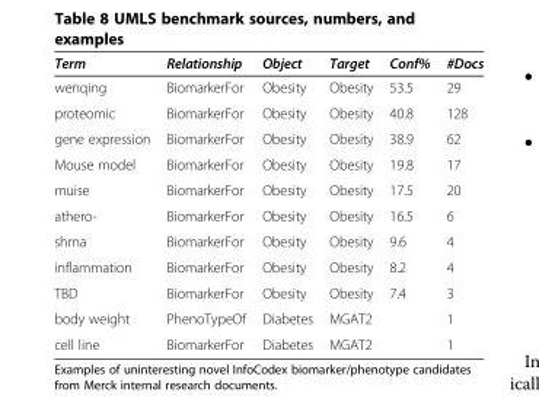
<table><thead><tr><td>Term</td><td>Relationship</td><td>Object</td><td>Target</td><td>Conf%</td><td>#Docs</td></tr></thead><tbody><tr><td>wenqing</td><td>BiomarkerFor</td><td>Obesity</td><td>Obesity</td><td>53.5</td><td>29</td></tr><tr><td>proteomic</td><td>BiomarkerFor</td><td>Obesity</td><td>Obesity</td><td>40.8</td><td>128</td></tr><tr><td>gene expression</td><td>BiomarkerFor</td><td>Obesity</td><td>Obesity</td><td>38.9</td><td>62</td></tr><tr><td>Mouse model</td><td>BiomarkerFor</td><td>Obesity</td><td>Obesity</td><td>19.8</td><td>17</td></tr><tr><td>muise</td><td>BiomarkerFor</td><td>Obesity</td><td>Obesity</td><td>17.5</td><td>20</td></tr><tr><td>athero-</td><td>BiomarkerFor</td><td>Obesity</td><td>Obesity</td><td>16.5</td><td>6</td></tr><tr><td>shrna</td><td>BiomarkerFor</td><td>Obesity</td><td>Obesity</td><td>9.6</td><td>4</td></tr><tr><td>inflammation</td><td>BiomarkerFor</td><td>Obesity</td><td>Obesity</td><td>8.2</td><td>4</td></tr><tr><td>TBD</td><td>BiomarkerFor</td><td>Obesity</td><td>Obesity</td><td>7.4</td><td>3</td></tr><tr><td>body weight</td><td>PhenoTypeOf</td><td>Diabetes</td><td>MGAT2</td><td></td><td>1</td></tr><tr><td>cell line</td><td>BiomarkerFor</td><td>Diabetes</td><td>MGAT2</td><td></td><td>1</td></tr></tbody></table>